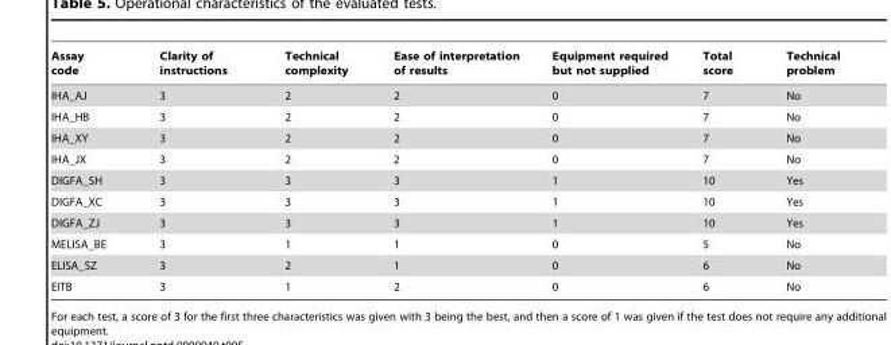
<table><thead><tr><td>Assay code</td><td>Clarity of instructions</td><td>Technical complexity</td><td>Ease of interpretation of results</td><td>Equipment required but not supplied</td><td>Total score</td><td>Technical problem</td></tr></thead><tbody><tr><td>IHA_AJ</td><td>3</td><td>2</td><td>2</td><td>0</td><td>7</td><td>No</td></tr><tr><td>IHA_HB</td><td>3</td><td>2</td><td>2</td><td>0</td><td>7</td><td>No</td></tr><tr><td>IHA_XY</td><td>3</td><td>2</td><td>2</td><td>0</td><td>7</td><td>No</td></tr><tr><td>IHA_JX</td><td>3</td><td>2</td><td>2</td><td>0</td><td>7</td><td>No</td></tr><tr><td>DIGFA_SH</td><td>3</td><td>3</td><td>3</td><td>1</td><td>10</td><td>Yes</td></tr><tr><td>DIGFA_XC</td><td>3</td><td>3</td><td>3</td><td>1</td><td>10</td><td>Yes</td></tr><tr><td>DIGFA_ZJ</td><td>3</td><td>3</td><td>3</td><td>1</td><td>10</td><td>Yes</td></tr><tr><td>MELISA_BE</td><td>3</td><td>1</td><td>1</td><td>0</td><td>5</td><td>No</td></tr><tr><td>ELISA_SZ</td><td>3</td><td>2</td><td>1</td><td>0</td><td>6</td><td>No</td></tr><tr><td>EITB</td><td>3</td><td>1</td><td>2</td><td>0</td><td>6</td><td>No</td></tr></tbody></table>